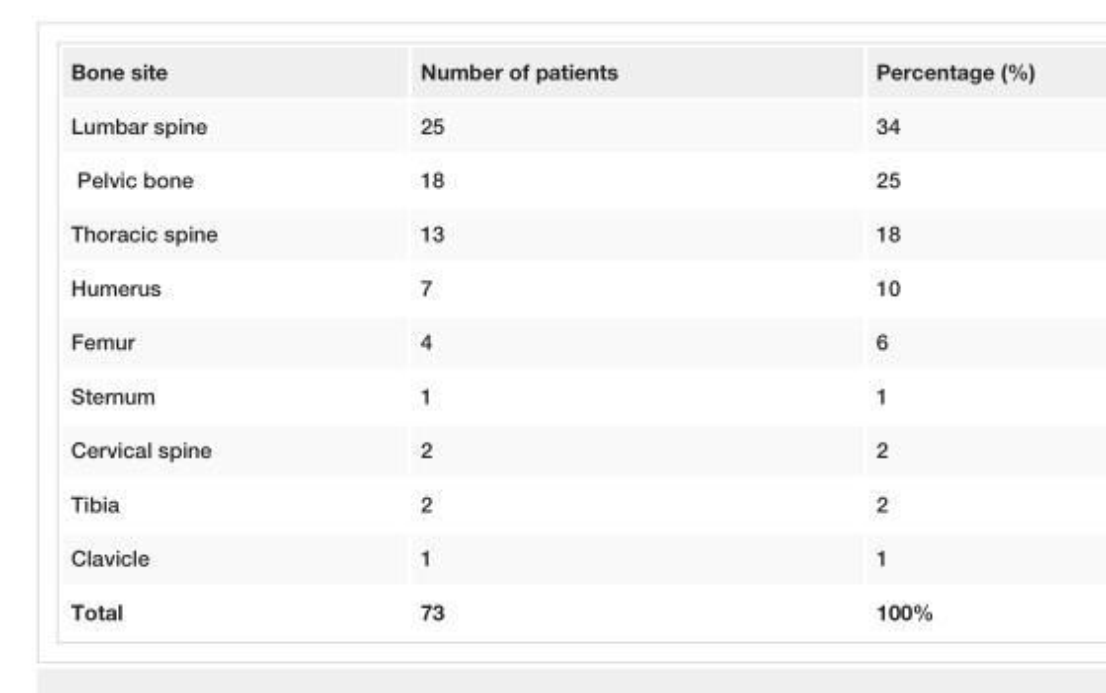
<table><tbody><tr><td>Bone site</td><td>Number of patients</td><td>Percentage (%)</td></tr><tr><td>Lumbar spine</td><td>25</td><td>34</td></tr><tr><td>Pelvic bone</td><td>18</td><td>25</td></tr><tr><td>Thoracic spine</td><td>13</td><td>18</td></tr><tr><td>Humerus</td><td>7</td><td>10</td></tr><tr><td>Femur</td><td>4</td><td>6</td></tr><tr><td>Sternum</td><td>1</td><td>1</td></tr><tr><td>Cervical spine</td><td>2</td><td>2</td></tr><tr><td>Tibia</td><td>2</td><td>2</td></tr><tr><td>Clavicle</td><td>1</td><td>1</td></tr><tr><td>Total</td><td>73</td><td>100%</td></tr></tbody></table>